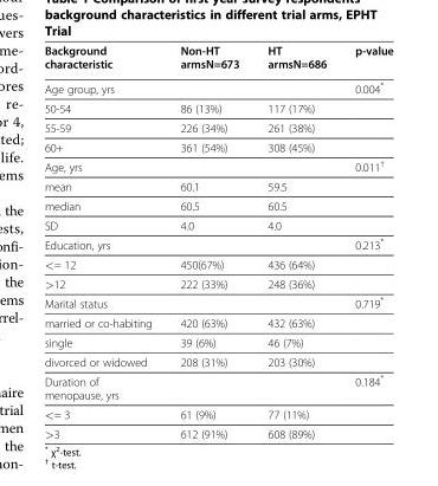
<table><thead><tr><td>Background characteristic</td><td>Non-HT armsN=673</td><td>HT armsN=686</td><td>p-value</td></tr></thead><tbody><tr><td>Age group, yrs</td><td></td><td></td><td>0.004*</td></tr><tr><td>50-54</td><td>86 (13%)</td><td>117 (17%)</td><td></td></tr><tr><td>55-59</td><td>226 (34%)</td><td>261 (38%)</td><td></td></tr><tr><td>60+</td><td>361 (54%)</td><td>308 (45%)</td><td></td></tr><tr><td>Age, yrs</td><td></td><td></td><td>0.011<sup>†</sup></td></tr><tr><td>mean</td><td>60.1</td><td>59.5</td><td></td></tr><tr><td>median</td><td>60.5</td><td>60.5</td><td></td></tr><tr><td>SD</td><td>4.0</td><td>4.0</td><td></td></tr><tr><td>Education, yrs</td><td></td><td></td><td>0.213*</td></tr><tr><td>&lt;= 12</td><td>450(67%)</td><td>436 (64%)</td><td></td></tr><tr><td>&gt;12</td><td>222 (33%)</td><td>248 (36%)</td><td></td></tr><tr><td>Marital status</td><td></td><td></td><td>0.719*</td></tr><tr><td>married or co-habiting</td><td>420 (63%)</td><td>432 (63%)</td><td></td></tr><tr><td>single</td><td>39 (6%)</td><td>46 (7%)</td><td></td></tr><tr><td>divorced or widowed</td><td>208 (31%)</td><td>203 (30%)</td><td></td></tr><tr><td>Duration of menopause, yrs</td><td></td><td></td><td>0.184*</td></tr><tr><td>&lt;= 3</td><td>61 (9%)</td><td>77 (11%)</td><td></td></tr><tr><td>&gt;3</td><td>612 (91%)</td><td>608 (89%)</td><td></td></tr></tbody></table>